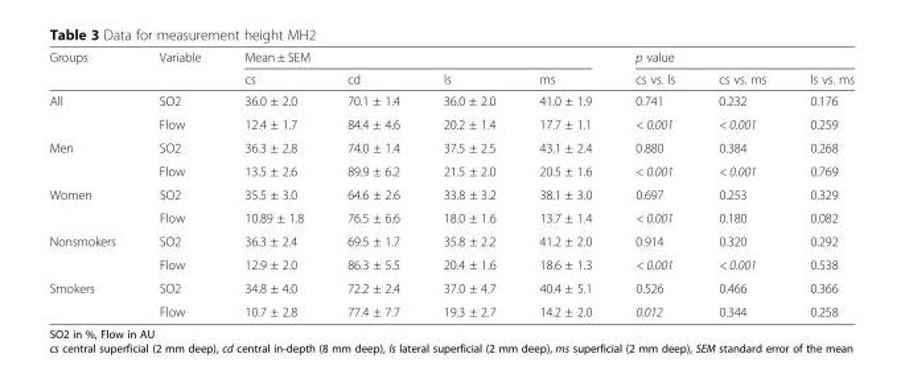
<table><thead><tr><td rowspan="2">Groups</td><td rowspan="2">Variable</td><td colspan="4">Mean ± SEM</td><td colspan="3">p value</td></tr><tr><td>cs</td><td>cd</td><td>ls</td><td>ms</td><td>cs vs. ls</td><td>cs vs. ms</td><td>ls vs. ms</td></tr></thead><tbody><tr><td rowspan="2">All</td><td>SO2</td><td>36.0 ± 2.0</td><td>70.1 ± 1.4</td><td>36.0 ± 2.0</td><td>41.0 ± 1.9</td><td>0.741</td><td>0.232</td><td>0.176</td></tr><tr><td>Flow</td><td>12.4 ± 1.7</td><td>84.4 ± 4.6</td><td>20.2 ± 1.4</td><td>17.7 ± 1.1</td><td>&lt; 0.001</td><td>&lt; 0.001</td><td>0.259</td></tr><tr><td rowspan="2">Men</td><td>SO2</td><td>36.3 ± 2.8</td><td>74.0 ± 1.4</td><td>37.5 ± 2.5</td><td>43.1 ± 2.4</td><td>0.880</td><td>0.384</td><td>0.268</td></tr><tr><td>Flow</td><td>13.5 ± 2.6</td><td>89.9 ± 6.2</td><td>21.5 ± 2.0</td><td>20.5 ± 1.6</td><td>&lt; 0.001</td><td>&lt; 0.001</td><td>0.769</td></tr><tr><td rowspan="2">Women</td><td>SO2</td><td>35.5 ± 3.0</td><td>64.6 ± 2.6</td><td>33.8 ± 3.2</td><td>38.1 ± 3.0</td><td>0.697</td><td>0.253</td><td>0.329</td></tr><tr><td>Flow</td><td>10.89 ± 1.8</td><td>76.5 ± 6.6</td><td>18.0 ± 1.6</td><td>13.7 ± 1.4</td><td>&lt; 0.001</td><td>0.180</td><td>0.082</td></tr><tr><td rowspan="2">Nonsmokers</td><td>SO2</td><td>36.3 ± 2.4</td><td>69.5 ± 1.7</td><td>35.8 ± 2.2</td><td>41.2 ± 2.0</td><td>0.914</td><td>0.320</td><td>0.292</td></tr><tr><td>Flow</td><td>12.9 ± 2.0</td><td>86.3 ± 5.5</td><td>20.4 ± 1.6</td><td>18.6 ± 1.3</td><td>&lt; 0.001</td><td>&lt; 0.001</td><td>0.538</td></tr><tr><td rowspan="2">Smokers</td><td>SO2</td><td>34.8 ± 4.0</td><td>72.2 ± 2.4</td><td>37.0 ± 4.7</td><td>40.4 ± 5.1</td><td>0.526</td><td>0.466</td><td>0.366</td></tr><tr><td>Flow</td><td>10.7 ± 2.8</td><td>77.4 ± 7.7</td><td>19.3 ± 2.7</td><td>14.2 ± 2.0</td><td>0.012</td><td>0.344</td><td>0.258</td></tr></tbody></table>